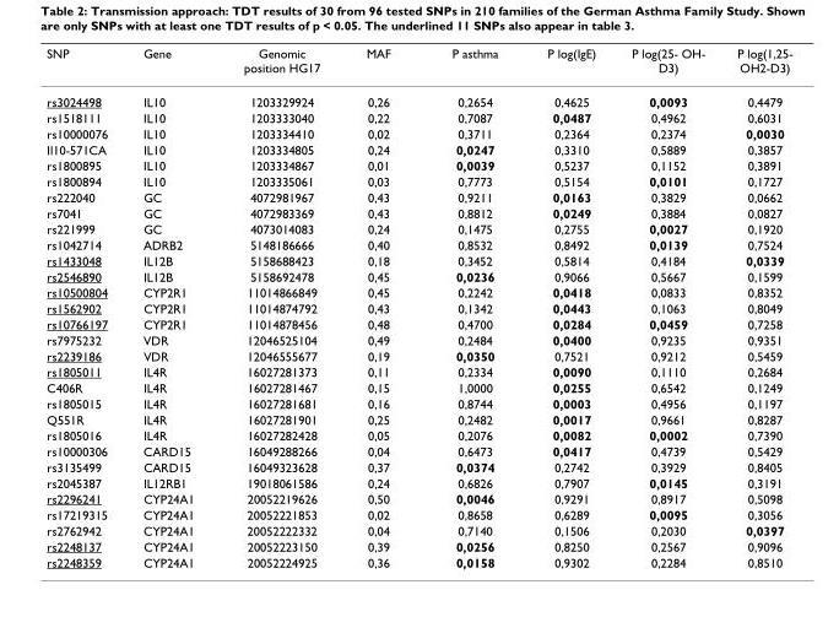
<table><thead><tr><td>SNP</td><td>Gene</td><td>Genomic position HG17</td><td>MAF</td><td>P asthma</td><td>P log(IgE)</td><td>P log(25- OH- D3)</td><td>P log(1,25- OH2-D3)</td></tr></thead><tbody><tr><td>rs3024498</td><td>IL10</td><td>1203329924</td><td>0,26</td><td>0,2654</td><td>0,4625</td><td>0,0093</td><td>0,4479</td></tr><tr><td>rs1518111</td><td>IL10</td><td>1203333040</td><td>0,22</td><td>0,7087</td><td>0,0487</td><td>0,4962</td><td>0,6031</td></tr><tr><td>rs10000076</td><td>IL10</td><td>1203334410</td><td>0,02</td><td>0,3711</td><td>0,2364</td><td>0,2374</td><td>0,0030</td></tr><tr><td>Il10-571CA</td><td>IL10</td><td>1203334805</td><td>0,24</td><td>0,0247</td><td>0,3310</td><td>0,5889</td><td>0,3857</td></tr><tr><td>rs1800895</td><td>IL10</td><td>1203334867</td><td>0,01</td><td>0,0039</td><td>0,5237</td><td>0,1152</td><td>0,3891</td></tr><tr><td>rs1800894</td><td>IL10</td><td>1203335061</td><td>0,03</td><td>0,7773</td><td>0,5154</td><td>0,0101</td><td>0,1727</td></tr><tr><td>rs222040</td><td>GC</td><td>4072981967</td><td>0,43</td><td>0,9211</td><td>0,0163</td><td>0,3829</td><td>0,0662</td></tr><tr><td>rs7041</td><td>GC</td><td>4072983369</td><td>0,43</td><td>0,8812</td><td>0,0249</td><td>0,3884</td><td>0,0827</td></tr><tr><td>rs221999</td><td>GC</td><td>4073014083</td><td>0,24</td><td>0,1475</td><td>0,2755</td><td>0,0027</td><td>0,1920</td></tr><tr><td>rs1042714</td><td>ADRB2</td><td>5148186666</td><td>0,40</td><td>0,8532</td><td>0,8492</td><td>0,0139</td><td>0,7524</td></tr><tr><td>rs1433048</td><td>IL12B</td><td>5158688423</td><td>0,18</td><td>0,3452</td><td>0,5814</td><td>0,4184</td><td>0,0339</td></tr><tr><td>rs2546890</td><td>IL12B</td><td>5158692478</td><td>0,45</td><td>0,0236</td><td>0,9066</td><td>0,5667</td><td>0,1599</td></tr><tr><td>rs10500804</td><td>CYP2R1</td><td>11014866849</td><td>0,45</td><td>0,2242</td><td>0,0418</td><td>0,0833</td><td>0,8352</td></tr><tr><td>rs1562902</td><td>CYP2R1</td><td>11014874792</td><td>0,43</td><td>0,1342</td><td>0,0443</td><td>0,1063</td><td>0,8049</td></tr><tr><td>rs10766197</td><td>CYP2R1</td><td>11014878456</td><td>0,48</td><td>0,4700</td><td>0,0284</td><td>0,0459</td><td>0,7258</td></tr><tr><td>rs7975232</td><td>VDR</td><td>12046525104</td><td>0,49</td><td>0,2484</td><td>0,0400</td><td>0,9235</td><td>0,9351</td></tr><tr><td>rs2239186</td><td>VDR</td><td>12046555677</td><td>0,19</td><td>0,0350</td><td>0,7521</td><td>0,9212</td><td>0,5459</td></tr><tr><td>rs1805011</td><td>IL4R</td><td>16027281373</td><td>0,11</td><td>0,2334</td><td>0,0090</td><td>0,1110</td><td>0,2684</td></tr><tr><td>C406R</td><td>IL4R</td><td>16027281467</td><td>0,15</td><td>1,0000</td><td>0,0255</td><td>0,6542</td><td>0,1249</td></tr><tr><td>rs1805015</td><td>IL4R</td><td>16027281681</td><td>0,16</td><td>0,8744</td><td>0,0003</td><td>0,4956</td><td>0,1197</td></tr><tr><td>Q551R</td><td>IL4R</td><td>16027281901</td><td>0,25</td><td>0,2482</td><td>0,0017</td><td>0,9661</td><td>0,8287</td></tr><tr><td>rs1805016</td><td>IL4R</td><td>16027282428</td><td>0,05</td><td>0,2076</td><td>0,0082</td><td>0,0002</td><td>0,7390</td></tr><tr><td>rs10000306</td><td>CARD15</td><td>16049288266</td><td>0,04</td><td>0,6473</td><td>0,0417</td><td>0,4739</td><td>0,5429</td></tr><tr><td>rs3135499</td><td>CARD15</td><td>16049323628</td><td>0,37</td><td>0,0374</td><td>0,2742</td><td>0,3929</td><td>0,8405</td></tr><tr><td>rs2045387</td><td>IL12RB1</td><td>19018061586</td><td>0,24</td><td>0,6826</td><td>0,7907</td><td>0,0145</td><td>0,3191</td></tr><tr><td>rs2296241</td><td>CYP24A1</td><td>20052219626</td><td>0,50</td><td>0,0046</td><td>0,9291</td><td>0,8917</td><td>0,5098</td></tr><tr><td>rs17219315</td><td>CYP24A1</td><td>20052221853</td><td>0,02</td><td>0,8658</td><td>0,6289</td><td>0,0095</td><td>0,3056</td></tr><tr><td>rs2762942</td><td>CYP24A1</td><td>20052222332</td><td>0,04</td><td>0,7140</td><td>0,1506</td><td>0,2030</td><td>0,0397</td></tr><tr><td>rs2248137</td><td>CYP24A1</td><td>20052223150</td><td>0,39</td><td>0,0256</td><td>0,8250</td><td>0,2567</td><td>0,9096</td></tr><tr><td>rs2248359</td><td>CYP24A1</td><td>20052224925</td><td>0,36</td><td>0,0158</td><td>0,9302</td><td>0,2284</td><td>0,8510</td></tr></tbody></table>